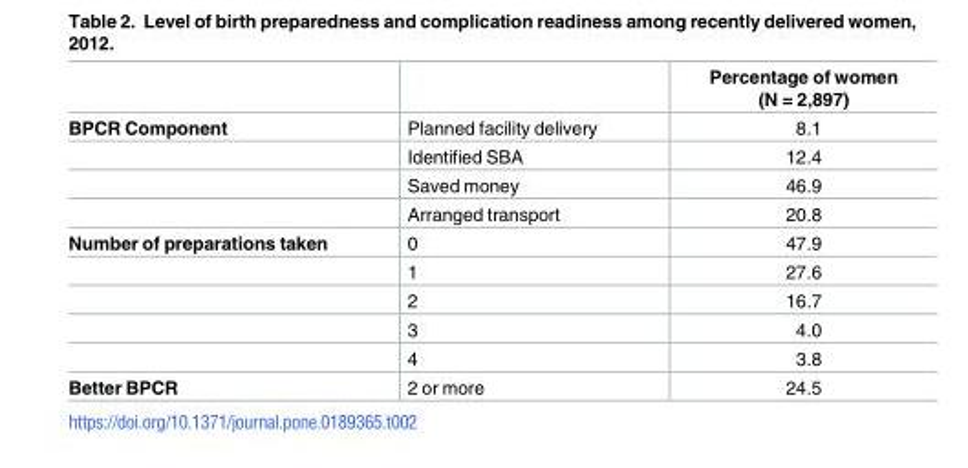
<table><thead><tr><td></td><td></td><td>Percentage of women (N = 2,897)</td></tr></thead><tbody><tr><td rowspan="4">BPCR Component</td><td>Planned facility delivery</td><td>8.1</td></tr><tr><td>Identified SBA</td><td>12.4</td></tr><tr><td>Saved money</td><td>46.9</td></tr><tr><td>Arranged transport</td><td>20.8</td></tr><tr><td rowspan="5">Number of preparations taken</td><td>0</td><td>47.9</td></tr><tr><td>1</td><td>27.6</td></tr><tr><td>2</td><td>16.7</td></tr><tr><td>3</td><td>4.0</td></tr><tr><td>4</td><td>3.8</td></tr><tr><td>Better BPCR</td><td>2 or more</td><td>24.5</td></tr></tbody></table>